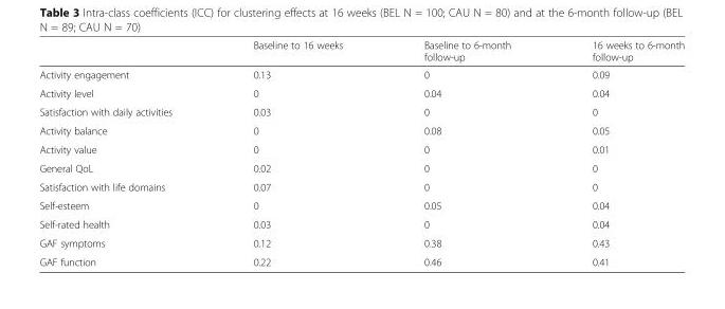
<table><thead><tr><td></td><td>Baseline to 16 weeks</td><td>Baseline to 6-month follow-up</td><td>16 weeks to 6-month follow-up</td></tr></thead><tbody><tr><td>Activity engagement</td><td>0.13</td><td>0</td><td>0.09</td></tr><tr><td>Activity level</td><td>0</td><td>0.04</td><td>0.04</td></tr><tr><td>Satisfaction with daily activities</td><td>0.03</td><td>0</td><td>0</td></tr><tr><td>Activity balance</td><td>0</td><td>0.08</td><td>0.05</td></tr><tr><td>Activity value</td><td>0</td><td>0</td><td>0.01</td></tr><tr><td>General QoL</td><td>0.02</td><td>0</td><td>0</td></tr><tr><td>Satisfaction with life domains</td><td>0.07</td><td>0</td><td>0</td></tr><tr><td>Self-esteem</td><td>0</td><td>0.05</td><td>0.04</td></tr><tr><td>Self-rated health</td><td>0.03</td><td>0</td><td>0.04</td></tr><tr><td>GAF symptoms</td><td>0.12</td><td>0.38</td><td>0.43</td></tr><tr><td>GAF function</td><td>0.22</td><td>0.46</td><td>0.41</td></tr></tbody></table>